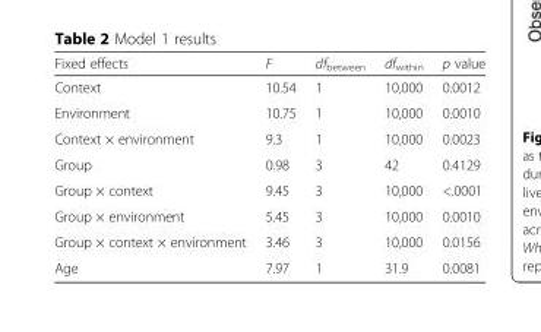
<table><thead><tr><td>Fixed effects</td><td>F</td><td>df<sub>between</sub></td><td>df<sub>within</sub></td><td>p value</td></tr></thead><tbody><tr><td>Context</td><td>10.54</td><td>1</td><td>10,000</td><td>0.0012</td></tr><tr><td>Environment</td><td>10.75</td><td>1</td><td>10,000</td><td>0.0010</td></tr><tr><td>Context × environment</td><td>9.3</td><td>1</td><td>10,000</td><td>0.0023</td></tr><tr><td>Group</td><td>0.98</td><td>3</td><td>42</td><td>0.4129</td></tr><tr><td>Group × context</td><td>9.45</td><td>3</td><td>10,000</td><td>&lt;.0001</td></tr><tr><td>Group × environment</td><td>5.45</td><td>3</td><td>10,000</td><td>0.0010</td></tr><tr><td>Group × context × environment</td><td>3.46</td><td>3</td><td>10,000</td><td>0.0156</td></tr><tr><td>Age</td><td>7.97</td><td>1</td><td>31.9</td><td>0.0081</td></tr></tbody></table>